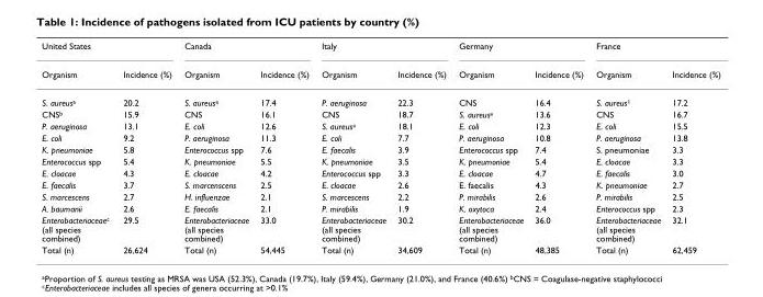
<table><thead><tr><td colspan="2">United States</td><td colspan="2">Canada</td><td colspan="2">Italy</td><td colspan="2">Germany</td><td colspan="2">France</td></tr><tr><td>Organism</td><td>Incidence (%)</td><td>Organism</td><td>Incidence (%)</td><td>Organism</td><td>Incidence (%)</td><td>Organism</td><td>Incidence (%)</td><td>Organism</td><td>Incidence (%)</td></tr></thead><tbody><tr><td>S. aureus<sup>a</sup></td><td>20.2</td><td>S. aureus<sup>a</sup></td><td>17.4</td><td>P. aeruginosa</td><td>22.3</td><td>CNS</td><td>16.4</td><td>S. aureus<sup>1</sup></td><td>17.2</td></tr><tr><td>CNS<sup>b</sup></td><td>15.9</td><td>CNS</td><td>16.1</td><td>CNS</td><td>18.7</td><td>S. aureus<sup>a</sup></td><td>13.6</td><td>CNS</td><td>16.7</td></tr><tr><td>P. aeruginosa</td><td>13.1</td><td>E. coli</td><td>12.6</td><td>S. aureus<sup>a</sup></td><td>18.1</td><td>E. coli</td><td>12.3</td><td>E. coli</td><td>15.5</td></tr><tr><td>E. coli</td><td>9.2</td><td>P. aeruginosa</td><td>11.3</td><td>E. coli</td><td>7.7</td><td>P. aeruginosa</td><td>10.8</td><td>P. aeruginosa</td><td>13.8</td></tr><tr><td>K. pneumoniae</td><td>5.8</td><td>Enterococcus spp</td><td>7.6</td><td>E. faecalis</td><td>3.9</td><td>Enterococcus spp</td><td>7.4</td><td>S. pneumoniae</td><td>3.3</td></tr><tr><td>Enterococcus spp</td><td>5.4</td><td>K. pneumoniae</td><td>5.5</td><td>K. pneumoniae</td><td>3.5</td><td>K. pneumoniae</td><td>5.4</td><td>E. cloacae</td><td>3.3</td></tr><tr><td>E. cloacae</td><td>4.3</td><td>E. cloacae</td><td>4.2</td><td>Enterococcus spp</td><td>3.3</td><td>E. cloacae</td><td>4.7</td><td>E. faecalis</td><td>3.0</td></tr><tr><td>E. faecalis</td><td>3.7</td><td>S. marcenscens</td><td>2.5</td><td>E. cloacae</td><td>2.6</td><td>E. faecalis</td><td>4.3</td><td>K. pneumoniae</td><td>2.7</td></tr><tr><td>S. marcescens</td><td>2.7</td><td>H. influenzae</td><td>2.1</td><td>S. marcescens</td><td>2.2</td><td>P. mirabilis</td><td>2.6</td><td>P. mirabilis</td><td>2.5</td></tr><tr><td>A. baumanii</td><td>2.6</td><td>E. faecalis</td><td>2.1</td><td>P. mirabilis</td><td>1.9</td><td>K. oxytoca</td><td>2.4</td><td>Enterococcus spp</td><td>2.3</td></tr><tr><td>Enterobacteriaceae<sup>c</sup> (all species combined)</td><td>29.5</td><td>Enterobacteriaceae (all species combined)</td><td>33.0</td><td>Enterobacteriaceae (all species combined)</td><td>30.2</td><td>Enterobacteriaceae (all species combined)</td><td>36.0</td><td>Enterobacteriaceae (all species combined)</td><td>32.1</td></tr><tr><td>Total (n)</td><td>26,624</td><td>Total (n)</td><td>54,445</td><td>Total (n)</td><td>34,609</td><td>Total (n)</td><td>48,385</td><td>Total (n)</td><td>62,459</td></tr></tbody></table>